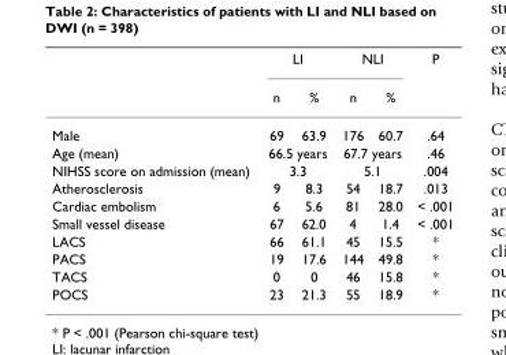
<table><thead><tr><td rowspan="2"></td><td colspan="2">LI</td><td colspan="2">NLI</td><td rowspan="2">P</td></tr><tr><td>n</td><td>%</td><td>n</td><td>%</td></tr></thead><tbody><tr><td>Male</td><td>69</td><td>63.9</td><td>176</td><td>60.7</td><td>.64</td></tr><tr><td>Age (mean)</td><td colspan="2">66.5 years</td><td colspan="2">67.7 years</td><td>.46</td></tr><tr><td>NIHSS score on admission (mean)</td><td colspan="2">3.3</td><td colspan="2">5.1</td><td>.004</td></tr><tr><td>Atherosclerosis</td><td>9</td><td>8.3</td><td>54</td><td>18.7</td><td>.013</td></tr><tr><td>Cardiac embolism</td><td>6</td><td>5.6</td><td>81</td><td>28.0</td><td>&lt; .001</td></tr><tr><td>Small vessel disease</td><td>67</td><td>62.0</td><td>4</td><td>1.4</td><td>&lt; .001</td></tr><tr><td>LACS</td><td>66</td><td>61.1</td><td>45</td><td>15.5</td><td>*</td></tr><tr><td>PACS</td><td>19</td><td>17.6</td><td>144</td><td>49.8</td><td>*</td></tr><tr><td>TACS</td><td>0</td><td>0</td><td>46</td><td>15.8</td><td>*</td></tr><tr><td>POCS</td><td>23</td><td>21.3</td><td>55</td><td>18.9</td><td>*</td></tr></tbody></table>